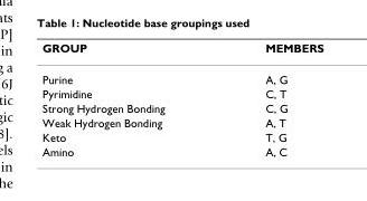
<table><thead><tr><td>GROUP</td><td>MEMBERS</td></tr></thead><tbody><tr><td>Purine</td><td>A, G</td></tr><tr><td>Pyrimidine</td><td>C, T</td></tr><tr><td>Strong Hydrogen Bonding</td><td>C, G</td></tr><tr><td>Weak Hydrogen Bonding</td><td>A, T</td></tr><tr><td>Keto</td><td>T, G</td></tr><tr><td>Amino</td><td>A, C</td></tr></tbody></table>